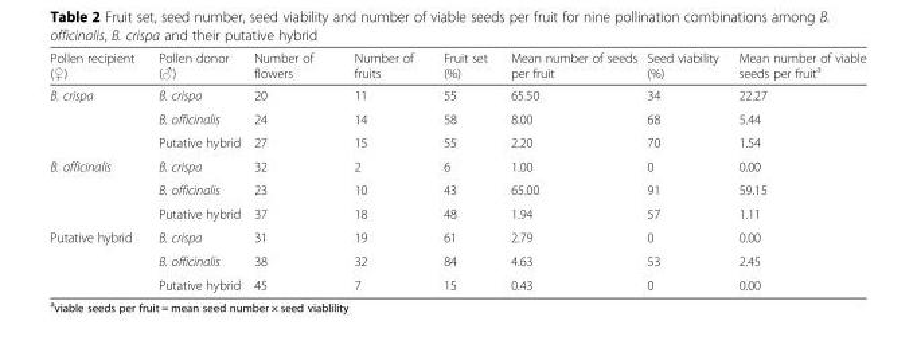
<table><thead><tr><td>Pollen recipient (♀)</td><td>Pollen donor (♂)</td><td>Number of flowers</td><td>Number of fruits</td><td>Fruit set (%)</td><td>Mean number of seeds per fruit</td><td>Seed viability (%)</td><td>Mean number of viable seeds per fruit<sup>a</sup></td></tr></thead><tbody><tr><td rowspan="3">B. crispa</td><td>B. crispa</td><td>20</td><td>11</td><td>55</td><td>65.50</td><td>34</td><td>22.27</td></tr><tr><td>B. officinalis</td><td>24</td><td>14</td><td>58</td><td>8.00</td><td>68</td><td>5.44</td></tr><tr><td>Putative hybrid</td><td>27</td><td>15</td><td>55</td><td>2.20</td><td>70</td><td>1.54</td></tr><tr><td rowspan="3">B. officinalis</td><td>B. crispa</td><td>32</td><td>2</td><td>6</td><td>1.00</td><td>0</td><td>0.00</td></tr><tr><td>B. officinalis</td><td>23</td><td>10</td><td>43</td><td>65.00</td><td>91</td><td>59.15</td></tr><tr><td>Putative hybrid</td><td>37</td><td>18</td><td>48</td><td>1.94</td><td>57</td><td>1.11</td></tr><tr><td rowspan="3">Putative hybrid</td><td>B. crispa</td><td>31</td><td>19</td><td>61</td><td>2.79</td><td>0</td><td>0.00</td></tr><tr><td>B. officinalis</td><td>38</td><td>32</td><td>84</td><td>4.63</td><td>53</td><td>2.45</td></tr><tr><td>Putative hybrid</td><td>45</td><td>7</td><td>15</td><td>0.43</td><td>0</td><td>0.00</td></tr></tbody></table>